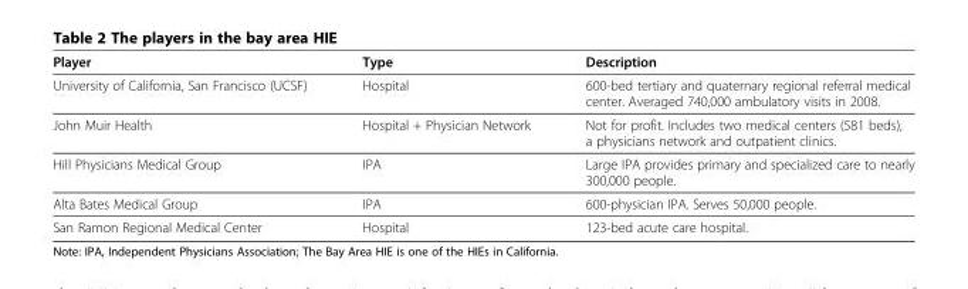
<table><thead><tr><td>Player</td><td>Type</td><td>Description</td></tr></thead><tbody><tr><td>University of California, San Francisco (UCSF)</td><td>Hospital</td><td>600-bed tertiary and quaternary regional referral medical center. Averaged 740,000 ambulatory visits in 2008.</td></tr><tr><td>John Muir Health</td><td>Hospital + Physician Network</td><td>Not for profit. Includes two medical centers (581 beds), a physicians network and outpatient clinics.</td></tr><tr><td>Hill Physicians Medical Group</td><td>IPA</td><td>Large IPA provides primary and specialized care to nearly 300,000 people.</td></tr><tr><td>Alta Bates Medical Group</td><td>IPA</td><td>600-physician IPA. Serves 50,000 people.</td></tr><tr><td>San Ramon Regional Medical Center</td><td>Hospital</td><td>123-bed acute care hospital.</td></tr></tbody></table>